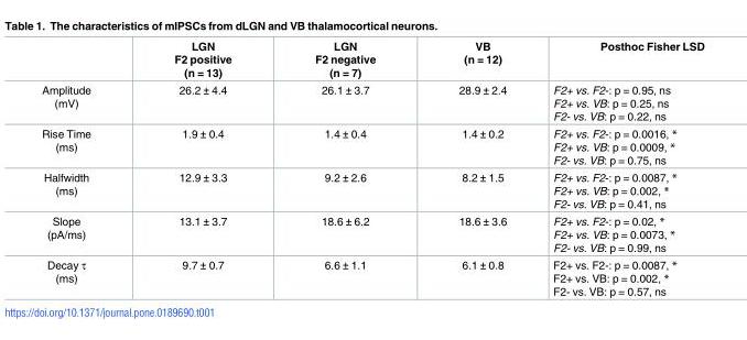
<table><thead><tr><td></td><td>LGN F2 positive (n = 13)</td><td>LGN F2 negative (n = 7)</td><td>VB (n = 12)</td><td>Posthoc Fisher LSD</td></tr></thead><tbody><tr><td>Amplitude (mV)</td><td>26.2 ± 4.4</td><td>26.1 ± 3.7</td><td>28.9 ± 2.4</td><td>F2+ vs. F2-: p = 0.95, ns F2+ vs. VB: p = 0.25, ns F2- vs. VB: p = 0.22, ns</td></tr><tr><td>Rise Time (ms)</td><td>1.9 ± 0.4</td><td>1.4 ± 0.4</td><td>1.4 ± 0.2</td><td>F2+ vs. F2-: p = 0.0016, * F2+ vs. VB: p = 0.0009, * F2- vs. VB: p = 0.75, ns</td></tr><tr><td>Halfwidth (ms)</td><td>12.9 ± 3.3</td><td>9.2 ± 2.6</td><td>8.2 ± 1.5</td><td>F2+ vs. F2-: p = 0.0087, * F2+ vs. VB: p = 0.002, * F2- vs. VB: p = 0.41, ns</td></tr><tr><td>Slope (pA/ms)</td><td>13.1 ± 3.7</td><td>18.6 ± 6.2</td><td>18.6 ± 3.6</td><td>F2+ vs. F2-: p = 0.02, * F2+ vs. VB: p = 0.0073, * F2- vs. VB: p = 0.99, ns</td></tr><tr><td>Decay τ (ms)</td><td>9.7 ± 0.7</td><td>6.6 ± 1.1</td><td>6.1 ± 0.8</td><td>F2+ vs. F2-: p = 0.0087, * F2+ vs. VB: p = 0.002, * F2- vs. VB: p = 0.57, ns</td></tr></tbody></table>